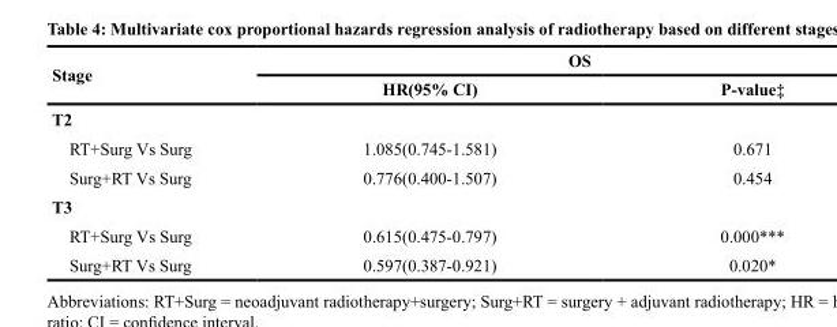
<table><thead><tr><td rowspan="2">Stage</td><td colspan="2">OS</td></tr><tr><td>HR(95% CI)</td><td>P-value<sup>‡</sup></td></tr></thead><tbody><tr><td colspan="3">T2</td></tr><tr><td>RT+Surg Vs Surg</td><td>1.085(0.745-1.581)</td><td>0.671</td></tr><tr><td>Surg+RT Vs Surg</td><td>0.776(0.400-1.507)</td><td>0.454</td></tr><tr><td colspan="3">T3</td></tr><tr><td>RT+Surg Vs Surg</td><td>0.615(0.475-0.797)</td><td>0.000***</td></tr><tr><td>Surg+RT Vs Surg</td><td>0.597(0.387-0.921)</td><td>0.020*</td></tr></tbody></table>